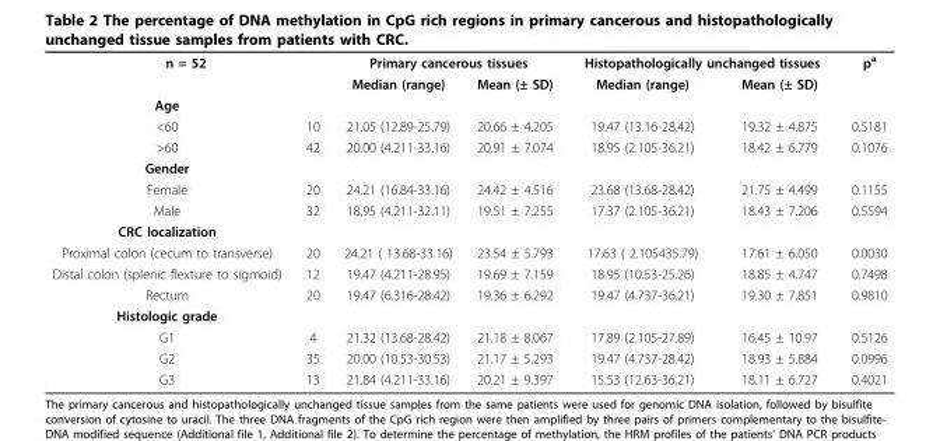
<table><tbody><tr><td colspan="2">n = 52</td><td colspan="2">Primary cancerous tissues</td><td colspan="2">Histopathologically unchanged tissues</td><td>p<sup>a</sup></td></tr><tr><td></td><td></td><td>Median (range)</td><td>Mean (± SD)</td><td>Median (range)</td><td>Mean (± SD)</td><td></td></tr><tr><td colspan="7">Age</td></tr><tr><td>&lt;60</td><td>10</td><td>21.05 (12.89-25.79)</td><td>20.66 ± 4.205</td><td>19.47 (13.16-28.42)</td><td>19.32 ± 4.875</td><td>0.5181</td></tr><tr><td>&gt;60</td><td>42</td><td>20.00 (4.211-33.16)</td><td>20.91 ± 7.074</td><td>18.95 (2.105-36.21)</td><td>18.42 ± 6.779</td><td>0.1076</td></tr><tr><td colspan="7">Gender</td></tr><tr><td>Female</td><td>20</td><td>24.21 (16.84-33.16)</td><td>24.42 ± 4.516</td><td>23.68 (13.68-28.42)</td><td>21.75 ± 4.499</td><td>0.1155</td></tr><tr><td>Male</td><td>32</td><td>18.95 (4.211-32.11)</td><td>19.51 ± 7.255</td><td>17.37 (2.105-36.21)</td><td>18.43 ± 7.206</td><td>0.5594</td></tr><tr><td colspan="7">CRC localization</td></tr><tr><td>Proximal colon (cecum to transverse)</td><td>20</td><td>24.21 ( 13.68-33.16)</td><td>23.54 ± 5.793</td><td>17.63 ( 2.105435.79)</td><td>17.61 ± 6.050</td><td>0.0030</td></tr><tr><td>Distal colon (splenic flexture to sigmoid)</td><td>12</td><td>19.47 (4.211-28.95)</td><td>19.69 ± 7.159</td><td>18.95 (10.53-25.26)</td><td>18.85 ± 4.747</td><td>0.7498</td></tr><tr><td>Rectum</td><td>20</td><td>19.47 (6.316-28.42)</td><td>19.36 ± 6.292</td><td>19.47 (4.737-36.21)</td><td>19.30 ± 7.851</td><td>0.9810</td></tr><tr><td colspan="7">Histologic grade</td></tr><tr><td>G1</td><td>4</td><td>21.32 (13.68-28.42)</td><td>21.18 ± 8.067</td><td>17.89 (2.105-27.89)</td><td>16.45 ± 10.97</td><td>0.5126</td></tr><tr><td>G2</td><td>35</td><td>20.00 (10.53-30.53)</td><td>21.17 ± 5.293</td><td>19.47 (4.737-28.42)</td><td>18.93 ± 5.884</td><td>0.0996</td></tr><tr><td>G3</td><td>13</td><td>21.84 (4.211-33.16)</td><td>20.21 ± 9.397</td><td>15.53 (12.63-36.21)</td><td>18.11 ± 6.727</td><td>0.4021</td></tr></tbody></table>